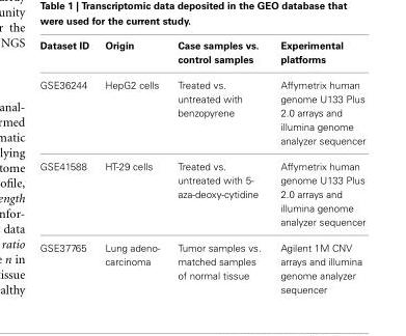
<table><thead><tr><td>Dataset ID</td><td>Origin</td><td>Case samples vs. control samples</td><td>Experimental platforms</td></tr></thead><tbody><tr><td>GSE36244</td><td>HepG2 cells</td><td>Treated vs. untreated with benzopyrene</td><td>Affymetrix human genome U133 Plus 2.0 arrays and illumina genome analyzer sequencer</td></tr><tr><td>GSE41588</td><td>HT-29 cells</td><td>Treated vs. untreated with 5- aza-deoxy-cytidine</td><td>Affymetrix human genome U133 Plus 2.0 arrays and illumina genome analyzer sequencer</td></tr><tr><td>GSE37765</td><td>Lung adeno- carcinoma</td><td>Tumor samples vs. matched samples of normal tissue</td><td>Agilent 1M CNV arrays and illumina genome analyzer sequencer</td></tr></tbody></table>